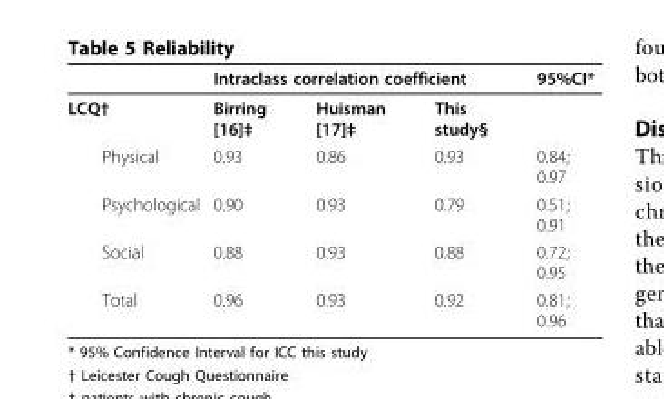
<table><thead><tr><td rowspan="2">LCQ†</td><td colspan="3">Intraclass correlation coefficient</td><td rowspan="2">95%CI*</td></tr><tr><td>Birring [16]‡</td><td>Huisman [17]‡</td><td>This study§</td></tr></thead><tbody><tr><td>Physical</td><td>0.93</td><td>0.86</td><td>0.93</td><td>0.84; 0.97</td></tr><tr><td>Psychological</td><td>0.90</td><td>0.93</td><td>0.79</td><td>0.51; 0.91</td></tr><tr><td>Social</td><td>0.88</td><td>0.93</td><td>0.88</td><td>0.72; 0.95</td></tr><tr><td>Total</td><td>0.96</td><td>0.93</td><td>0.92</td><td>0.81; 0.96</td></tr></tbody></table>